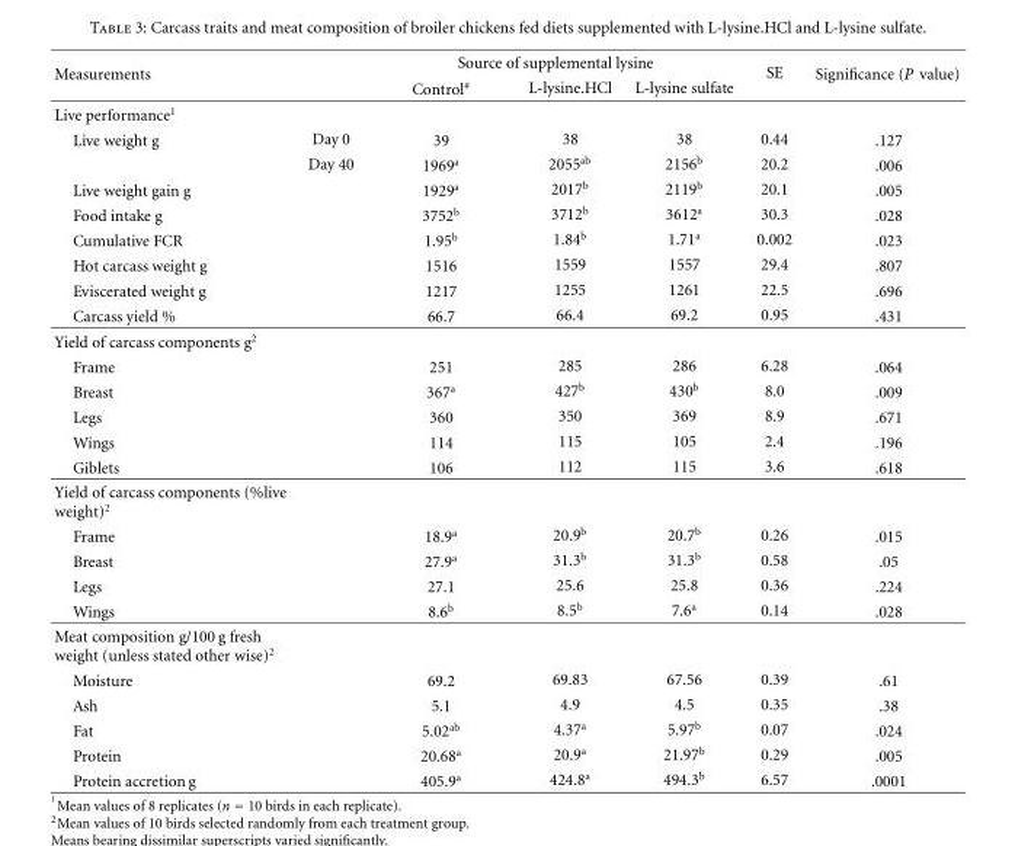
<table><thead><tr><td rowspan="2">Measurements</td><td rowspan="2"></td><td colspan="3">Source of supplemental lysine</td><td rowspan="2">SE</td><td rowspan="2">Significance (P value)</td></tr><tr><td>Control<sup>#</sup></td><td>L-lysine.HCl</td><td>L-lysine sulfate</td></tr></thead><tbody><tr><td colspan="7">Live performance<sup>1</sup></td></tr><tr><td rowspan="2">Live weight g</td><td>Day 0</td><td>39</td><td>38</td><td>38</td><td>0.44</td><td>.127</td></tr><tr><td>Day 40</td><td>1969<sup>a</sup></td><td>2055<sup>ab</sup></td><td>2156<sup>b</sup></td><td>20.2</td><td>.006</td></tr><tr><td>Live weight gain g</td><td></td><td>1929<sup>a</sup></td><td>2017<sup>b</sup></td><td>2119<sup>b</sup></td><td>20.1</td><td>.005</td></tr><tr><td>Food intake g</td><td></td><td>3752<sup>b</sup></td><td>3712<sup>b</sup></td><td>3612<sup>a</sup></td><td>30.3</td><td>.028</td></tr><tr><td>Cumulative FCR</td><td></td><td>1.95<sup>b</sup></td><td>1.84<sup>b</sup></td><td>1.71<sup>a</sup></td><td>0.002</td><td>.023</td></tr><tr><td>Hot carcass weight g</td><td></td><td>1516</td><td>1559</td><td>1557</td><td>29.4</td><td>.807</td></tr><tr><td>Eviscerated weight g</td><td></td><td>1217</td><td>1255</td><td>1261</td><td>22.5</td><td>.696</td></tr><tr><td>Carcass yield %</td><td></td><td>66.7</td><td>66.4</td><td>69.2</td><td>0.95</td><td>.431</td></tr><tr><td colspan="7">Yield of carcass components g<sup>2</sup></td></tr><tr><td>Frame</td><td></td><td>251</td><td>285</td><td>286</td><td>6.28</td><td>.064</td></tr><tr><td>Breast</td><td></td><td>367<sup>a</sup></td><td>427<sup>b</sup></td><td>430<sup>b</sup></td><td>8.0</td><td>.009</td></tr><tr><td>Legs</td><td></td><td>360</td><td>350</td><td>369</td><td>8.9</td><td>.671</td></tr><tr><td>Wings</td><td></td><td>114</td><td>115</td><td>105</td><td>2.4</td><td>.196</td></tr><tr><td>Giblets</td><td></td><td>106</td><td>112</td><td>115</td><td>3.6</td><td>.618</td></tr><tr><td colspan="7">Yield of carcass components (%live weight)<sup>2</sup></td></tr><tr><td>Frame</td><td></td><td>18.9<sup>a</sup></td><td>20.9<sup>b</sup></td><td>20.7<sup>b</sup></td><td>0.26</td><td>.015</td></tr><tr><td>Breast</td><td></td><td>27.9<sup>a</sup></td><td>31.3<sup>b</sup></td><td>31.3<sup>b</sup></td><td>0.58</td><td>.05</td></tr><tr><td>Legs</td><td></td><td>27.1</td><td>25.6</td><td>25.8</td><td>0.36</td><td>.224</td></tr><tr><td>Wings</td><td></td><td>8.6<sup>b</sup></td><td>8.5<sup>b</sup></td><td>7.6<sup>a</sup></td><td>0.14</td><td>.028</td></tr><tr><td colspan="7">Meat composition g/100 g fresh weight (unless stated other wise)<sup>2</sup></td></tr><tr><td>Moisture</td><td></td><td>69.2</td><td>69.83</td><td>67.56</td><td>0.39</td><td>.61</td></tr><tr><td>Ash</td><td></td><td>5.1</td><td>4.9</td><td>4.5</td><td>0.35</td><td>.38</td></tr><tr><td>Fat</td><td></td><td>5.02<sup>ab</sup></td><td>4.37<sup>a</sup></td><td>5.97<sup>b</sup></td><td>0.07</td><td>.024</td></tr><tr><td>Protein</td><td></td><td>20.68<sup>a</sup></td><td>20.9<sup>a</sup></td><td>21.97<sup>b</sup></td><td>0.29</td><td>.005</td></tr><tr><td>Protein accretion g</td><td></td><td>405.9<sup>a</sup></td><td>424.8<sup>a</sup></td><td>494.3<sup>b</sup></td><td>6.57</td><td>.0001</td></tr></tbody></table>